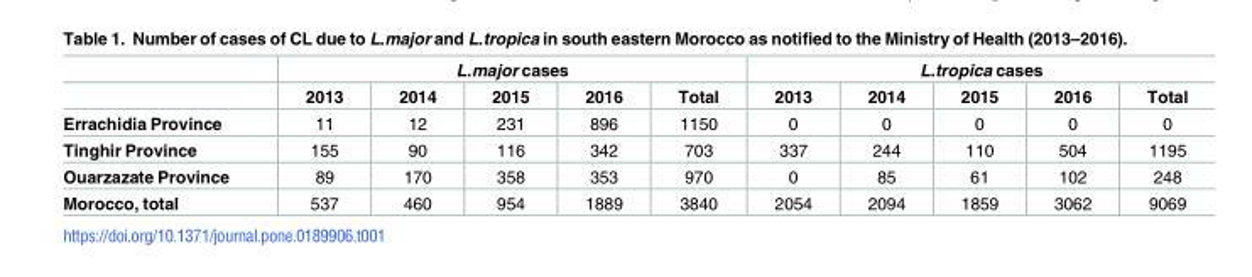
<table><thead><tr><td rowspan="2"></td><td colspan="5">L.major cases</td><td colspan="5">L.tropica cases</td></tr><tr><td>2013</td><td>2014</td><td>2015</td><td>2016</td><td>Total</td><td>2013</td><td>2014</td><td>2015</td><td>2016</td><td>Total</td></tr></thead><tbody><tr><td>Errachidia Province</td><td>11</td><td>12</td><td>231</td><td>896</td><td>1150</td><td>0</td><td>0</td><td>0</td><td>0</td><td>0</td></tr><tr><td>Tinghir Province</td><td>155</td><td>90</td><td>116</td><td>342</td><td>703</td><td>337</td><td>244</td><td>110</td><td>504</td><td>1195</td></tr><tr><td>Ouarzazate Province</td><td>89</td><td>170</td><td>358</td><td>353</td><td>970</td><td>0</td><td>85</td><td>61</td><td>102</td><td>248</td></tr><tr><td>Morocco, total</td><td>537</td><td>460</td><td>954</td><td>1889</td><td>3840</td><td>2054</td><td>2094</td><td>1859</td><td>3062</td><td>9069</td></tr></tbody></table>